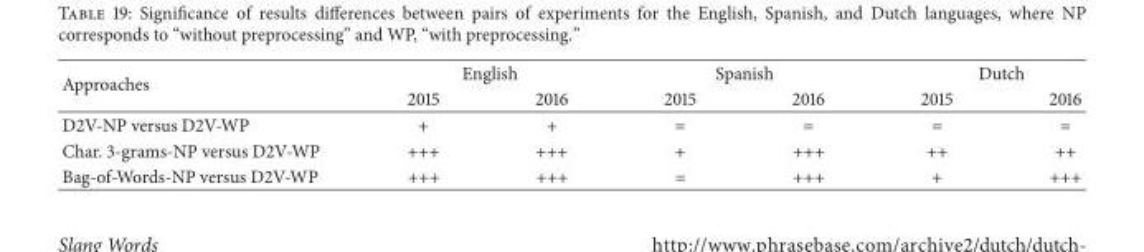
<table><thead><tr><td rowspan="2">Approaches</td><td colspan="2">English</td><td colspan="2">Spanish</td><td colspan="2">Dutch</td></tr><tr><td>2015</td><td>2016</td><td>2015</td><td>2016</td><td>2015</td><td>2016</td></tr></thead><tbody><tr><td>D2V-NP versus D2V-WP</td><td>+</td><td>+</td><td>=</td><td>=</td><td>=</td><td>=</td></tr><tr><td>Char. 3-grams-NP versus D2V-WP</td><td>+++</td><td>+++</td><td>+</td><td>+++</td><td>++</td><td>++</td></tr><tr><td>Bag-of-Words-NP versus D2V-WP</td><td>+++</td><td>+++</td><td>=</td><td>+++</td><td>+</td><td>+++</td></tr></tbody></table>